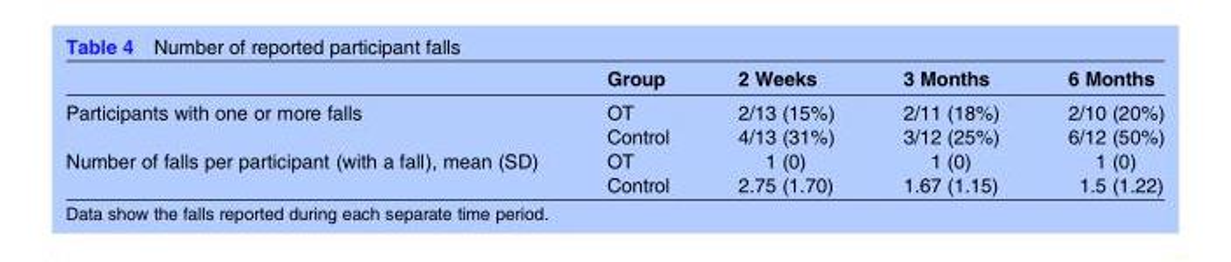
<table><thead><tr><td></td><td>Group</td><td>2 Weeks</td><td>3 Months</td><td>6 Months</td></tr></thead><tbody><tr><td rowspan="2">Participants with one or more falls</td><td>OT</td><td>2/13 (15%)</td><td>2/11 (18%)</td><td>2/10 (20%)</td></tr><tr><td>Control</td><td>4/13 (31%)</td><td>3/12 (25%)</td><td>6/12 (50%)</td></tr><tr><td rowspan="2">Number of falls per participant (with a fall), mean (SD)</td><td>OT</td><td>1 (0)</td><td>1 (0)</td><td>1 (0)</td></tr><tr><td>Control</td><td>2.75 (1.70)</td><td>1.67 (1.15)</td><td>1.5 (1.22)</td></tr></tbody></table>